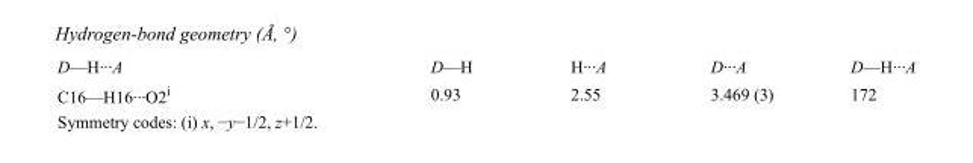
<table><tbody><tr><td>D—H···A</td><td>D—H</td><td>H···A</td><td>D···A</td><td>D—H···A</td></tr><tr><td>C16—H16···O2<sup>i</sup></td><td>0.93</td><td>2.55</td><td>3.469 (3)</td><td>172</td></tr></tbody></table>